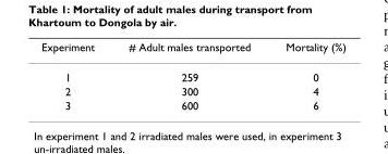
<table><thead><tr><td>Experiment</td><td># Adult males transported</td><td>Mortality (%)</td></tr></thead><tbody><tr><td>1</td><td>259</td><td>0</td></tr><tr><td>2</td><td>300</td><td>4</td></tr><tr><td>3</td><td>600</td><td>6</td></tr></tbody></table>